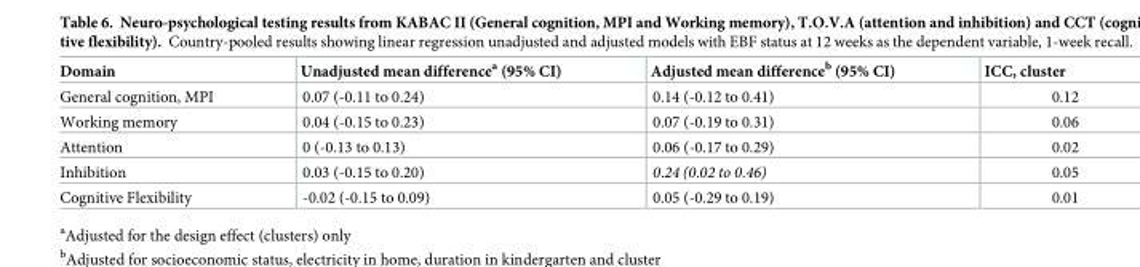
<table><thead><tr><td>Domain</td><td>Unadjusted mean difference<sup>a</sup> (95% CI)</td><td>Adjusted mean difference<sup>b</sup> (95% CI)</td><td>ICC, cluster</td></tr></thead><tbody><tr><td>General cognition, MPI</td><td>0.07 (-0.11 to 0.24)</td><td>0.14 (-0.12 to 0.41)</td><td>0.12</td></tr><tr><td>Working memory</td><td>0.04 (-0.15 to 0.23)</td><td>0.07 (-0.19 to 0.31)</td><td>0.06</td></tr><tr><td>Attention</td><td>0 (-0.13 to 0.13)</td><td>0.06 (-0.17 to 0.29)</td><td>0.02</td></tr><tr><td>Inhibition</td><td>0.03 (-0.15 to 0.20)</td><td>0.24 (0.02 to 0.46)</td><td>0.05</td></tr><tr><td>Cognitive Flexibility</td><td>-0.02 (-0.15 to 0.09)</td><td>0.05 (-0.29 to 0.19)</td><td>0.01</td></tr></tbody></table>